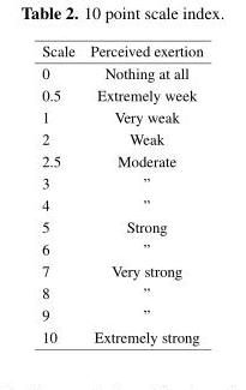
<table><thead><tr><td>Scale</td><td>Perceived exertion</td></tr></thead><tbody><tr><td>0</td><td>Nothing at all</td></tr><tr><td>0.5</td><td>Extremely week</td></tr><tr><td>1</td><td>Very weak</td></tr><tr><td>2</td><td>Weak</td></tr><tr><td>2.5</td><td>Moderate</td></tr><tr><td>3</td><td>”</td></tr><tr><td>4</td><td>”</td></tr><tr><td>5</td><td>Strong</td></tr><tr><td>6</td><td>”</td></tr><tr><td>7</td><td>Very strong</td></tr><tr><td>8</td><td>”</td></tr><tr><td>9</td><td>”</td></tr><tr><td>10</td><td>Extremely strong</td></tr></tbody></table>